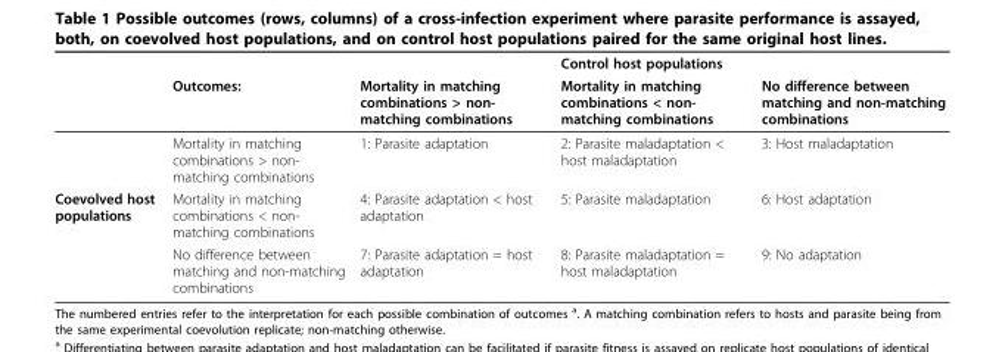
<table><thead><tr><td rowspan="2"></td><td rowspan="2">Outcomes:</td><td rowspan="2">Mortality in matching combinations &gt; non- matching combinations</td><td rowspan="2">Control host populations Mortality in matching combinations &lt; non- matching combinations</td><td rowspan="2">No difference between matching and non-matching combinations</td></tr><tr></tr></thead><tbody><tr><td></td><td>Mortality in matching combinations &gt; non- matching combinations</td><td>1: Parasite adaptation</td><td>2: Parasite maladaptation &lt; host maladaptation</td><td>3: Host maladaptation</td></tr><tr><td rowspan="2">Coevolved host populations</td><td>Mortality in matching combinations &lt; non- matching combinations</td><td>4: Parasite adaptation &lt; host adaptation</td><td>5: Parasite maladaptation</td><td>6: Host adaptation</td></tr><tr><td>No difference between matching and non-matching combinations</td><td>7: Parasite adaptation = host adaptation</td><td>8: Parasite maladaptation = host maladaptation</td><td>9: No adaptation</td></tr></tbody></table>